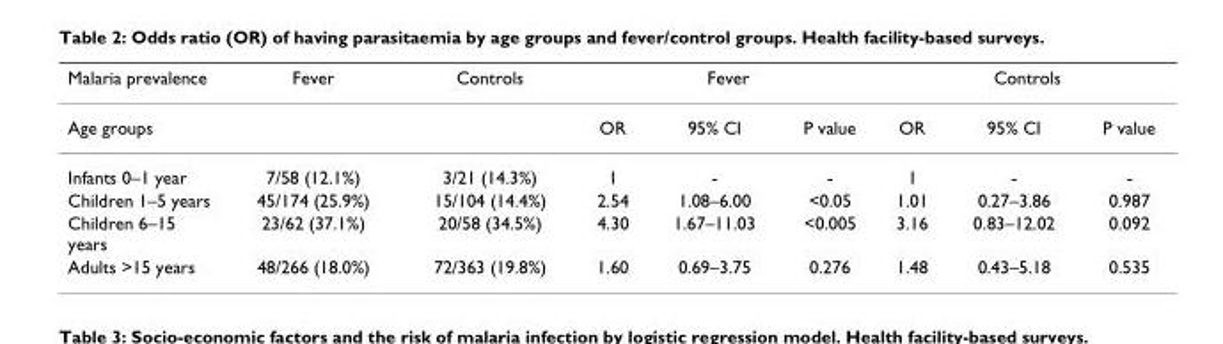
<table><thead><tr><td rowspan="2">Malaria prevalence Age groups</td><td rowspan="2">Fever</td><td rowspan="2">Controls</td><td colspan="3">Fever</td><td colspan="3">Controls</td></tr><tr><td>OR</td><td>95% CI</td><td>P value</td><td>OR</td><td>95% CI</td><td>P value</td></tr></thead><tbody><tr><td>Infants 0–1 year</td><td>7/58 (12.1%)</td><td>3/21 (14.3%)</td><td>1</td><td>-</td><td>-</td><td>1</td><td>-</td><td>-</td></tr><tr><td>Children 1–5 years</td><td>45/174 (25.9%)</td><td>15/104 (14.4%)</td><td>2.54</td><td>1.08–6.00</td><td>&lt;0.05</td><td>1.01</td><td>0.27–3.86</td><td>0.987</td></tr><tr><td>Children 6–15 years</td><td>23/62 (37.1%)</td><td>20/58 (34.5%)</td><td>4.30</td><td>1.67–11.03</td><td>&lt;0.005</td><td>3.16</td><td>0.83–12.02</td><td>0.092</td></tr><tr><td>Adults &gt;15 years</td><td>48/266 (18.0%)</td><td>72/363 (19.8%)</td><td>1.60</td><td>0.69–3.75</td><td>0.276</td><td>1.48</td><td>0.43–5.18</td><td>0.535</td></tr></tbody></table>